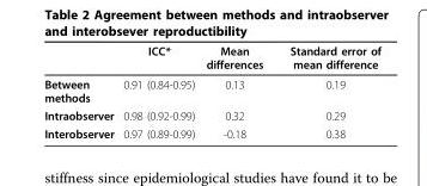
<table><thead><tr><td></td><td>ICC*</td><td>Mean differences</td><td>Standard error of mean difference</td></tr></thead><tbody><tr><td>Between methods</td><td>0.91 (0.84-0.95)</td><td>0.13</td><td>0.19</td></tr><tr><td>Intraobserver</td><td>0.98 (0.92-0.99)</td><td>0.32</td><td>0.29</td></tr><tr><td>Interobserver</td><td>0.97 (0.89-0.99)</td><td>-0.18</td><td>0.38</td></tr></tbody></table>